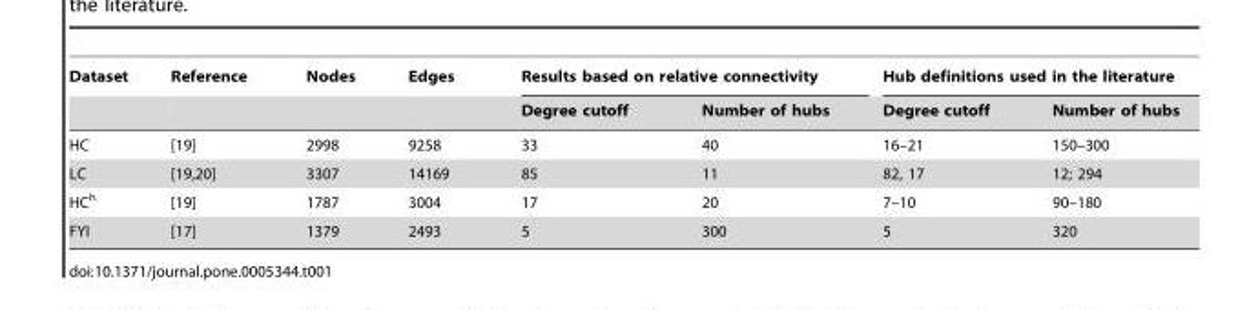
<table><thead><tr><td rowspan="2">Dataset</td><td rowspan="2">Reference</td><td rowspan="2">Nodes</td><td rowspan="2">Edges</td><td colspan="2">Results based on relative connectivity</td><td colspan="2">Hub definitions used in the literature</td></tr><tr><td>Degree cutoff</td><td>Number of hubs</td><td>Degree cutoff</td><td>Number of hubs</td></tr></thead><tbody><tr><td>HC</td><td>[19]</td><td>2998</td><td>9258</td><td>33</td><td>40</td><td>16–21</td><td>150–300</td></tr><tr><td>LC</td><td>[19,20]</td><td>3307</td><td>14169</td><td>85</td><td>11</td><td>82, 17</td><td>12; 294</td></tr><tr><td>HC<sup>h</sup></td><td>[19]</td><td>1787</td><td>3004</td><td>17</td><td>20</td><td>7–10</td><td>90–180</td></tr><tr><td>FYI</td><td>[17]</td><td>1379</td><td>2493</td><td>5</td><td>300</td><td>5</td><td>320</td></tr></tbody></table>